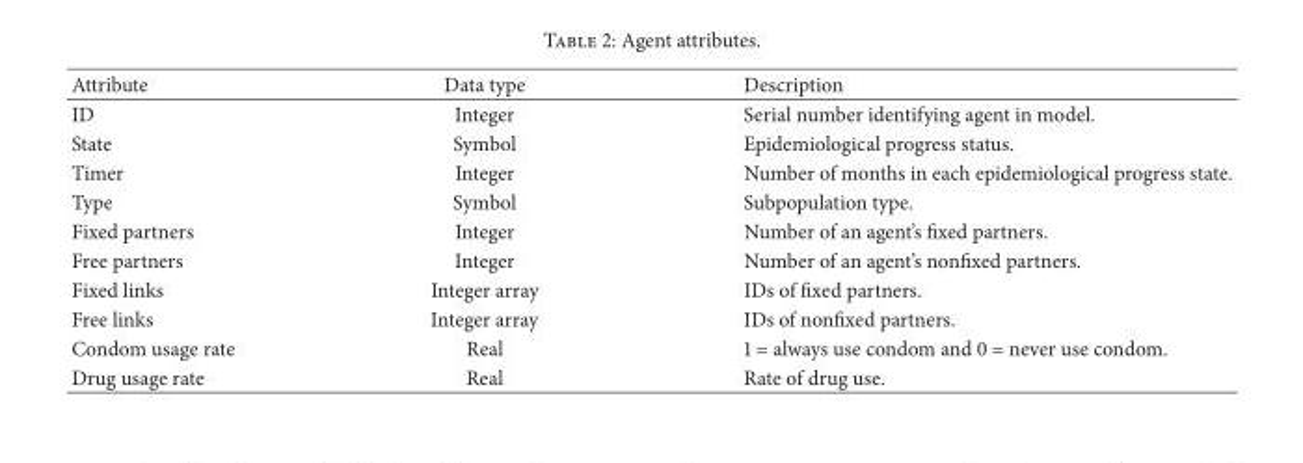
<table><thead><tr><td>Attribute</td><td>Data type</td><td>Description</td></tr></thead><tbody><tr><td>ID</td><td>Integer</td><td>Serial number identifying agent in model.</td></tr><tr><td>State</td><td>Symbol</td><td>Epidemiological progress status.</td></tr><tr><td>Timer</td><td>Integer</td><td>Number of months in each epidemiological progress state.</td></tr><tr><td>Type</td><td>Symbol</td><td>Subpopulation type.</td></tr><tr><td>Fixed partners</td><td>Integer</td><td>Number of an agent’s fixed partners.</td></tr><tr><td>Free partners</td><td>Integer</td><td>Number of an agent’s nonfixed partners.</td></tr><tr><td>Fixed links</td><td>Integer array</td><td>IDs of fixed partners.</td></tr><tr><td>Free links</td><td>Integer array</td><td>IDs of nonfixed partners.</td></tr><tr><td>Condom usage rate</td><td>Real</td><td>1 = always use condom and 0 = never use condom.</td></tr><tr><td>Drug usage rate</td><td>Real</td><td>Rate of drug use.</td></tr></tbody></table>